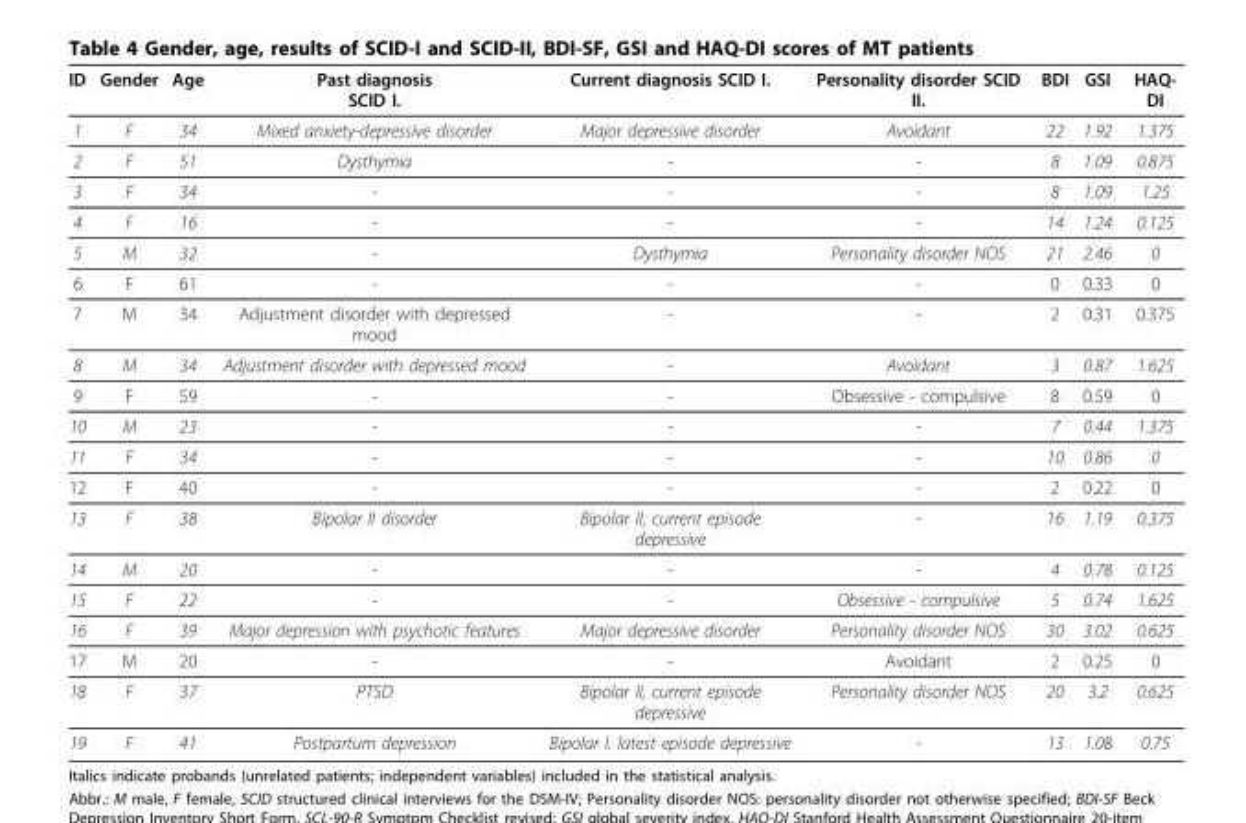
<table><thead><tr><td>ID</td><td>Gender</td><td>Age</td><td>Past diagnosis SCID I.</td><td>Current diagnosis SCID I.</td><td>Personality disorder SCID II.</td><td>BDI</td><td>GSI</td><td>HAQ- DI</td></tr></thead><tbody><tr><td>1</td><td>F</td><td>34</td><td>Mixed anxiety-depressive disorder</td><td>Major depressive disorder</td><td>Avoidant</td><td>22</td><td>1.92</td><td>1.375</td></tr><tr><td>2</td><td>F</td><td>51</td><td>Dysthymia</td><td>-</td><td>-</td><td>8</td><td>1.09</td><td>0.875</td></tr><tr><td>3</td><td>F</td><td>34</td><td>-</td><td>-</td><td>-</td><td>8</td><td>1.09</td><td>1.25</td></tr><tr><td>4</td><td>F</td><td>16</td><td>-</td><td>-</td><td>-</td><td>14</td><td>1.24</td><td>0.125</td></tr><tr><td>5</td><td>M</td><td>32</td><td>-</td><td>Dysthymia</td><td>Personality disorder NOS</td><td>21</td><td>2.46</td><td>0</td></tr><tr><td>6</td><td>F</td><td>61</td><td>-</td><td>-</td><td>-</td><td>0</td><td>0.33</td><td>0</td></tr><tr><td>7</td><td>M</td><td>34</td><td>Adjustment disorder with depressed mood</td><td>-</td><td>-</td><td>2</td><td>0.31</td><td>0.375</td></tr><tr><td>8</td><td>M</td><td>34</td><td>Adjustment disorder with depressed mood</td><td>-</td><td>Avoidant</td><td>3</td><td>0.87</td><td>1.625</td></tr><tr><td>9</td><td>F</td><td>59</td><td>-</td><td>-</td><td>Obsessive - compulsive</td><td>8</td><td>0.59</td><td>0</td></tr><tr><td>10</td><td>M</td><td>23</td><td>-</td><td>-</td><td>-</td><td>7</td><td>0.44</td><td>1.375</td></tr><tr><td>11</td><td>F</td><td>34</td><td>-</td><td>-</td><td>-</td><td>10</td><td>0.86</td><td>0</td></tr><tr><td>12</td><td>F</td><td>40</td><td>-</td><td>-</td><td>-</td><td>2</td><td>0.22</td><td>0</td></tr><tr><td>13</td><td>F</td><td>38</td><td>Bipolar II disorder</td><td>Bipolar II, current episode depressive</td><td>-</td><td>16</td><td>1.19</td><td>0.375</td></tr><tr><td>14</td><td>M</td><td>20</td><td>-</td><td>-</td><td>-</td><td>4</td><td>0.78</td><td>0.125</td></tr><tr><td>15</td><td>F</td><td>22</td><td>-</td><td>-</td><td>Obsessive - compulsive</td><td>5</td><td>0.74</td><td>1.625</td></tr><tr><td>16</td><td>F</td><td>39</td><td>Major depression with psychotic features</td><td>Major depressive disorder</td><td>Personality disorder NOS</td><td>30</td><td>3.02</td><td>0.625</td></tr><tr><td>17</td><td>M</td><td>20</td><td>-</td><td>-</td><td>Avoidant</td><td>2</td><td>0.25</td><td>0</td></tr><tr><td>18</td><td>F</td><td>37</td><td>PTSD</td><td>Bipolar II, current episode depressive</td><td>Personality disorder NOS</td><td>20</td><td>3.2</td><td>0.625</td></tr><tr><td>19</td><td>F</td><td>41</td><td>Postpartum depression</td><td>Bipolar I. latest episode depressive</td><td>-</td><td>13</td><td>1.08</td><td>0.75</td></tr></tbody></table>